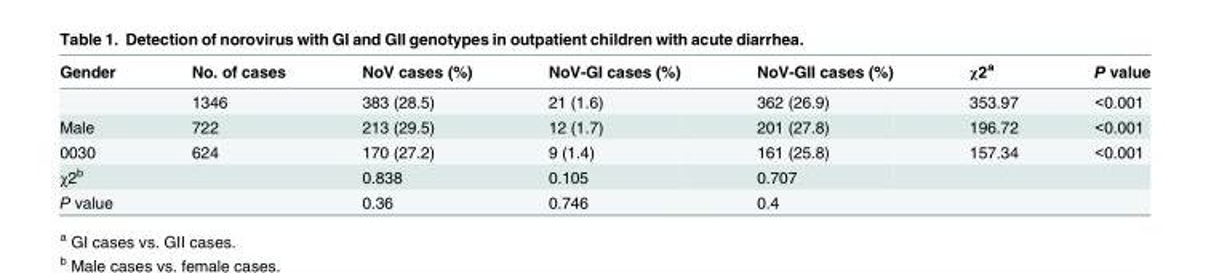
<table><thead><tr><td>Gender</td><td>No. of cases</td><td>NoV cases (%)</td><td>NoV-GI cases (%)</td><td>NoV-GII cases (%)</td><td>χ2<sup>a</sup></td><td>P value</td></tr></thead><tbody><tr><td></td><td>1346</td><td>383 (28.5)</td><td>21 (1.6)</td><td>362 (26.9)</td><td>353.97</td><td>&lt;0.001</td></tr><tr><td>Male</td><td>722</td><td>213 (29.5)</td><td>12 (1.7)</td><td>201 (27.8)</td><td>196.72</td><td>&lt;0.001</td></tr><tr><td>0030</td><td>624</td><td>170 (27.2)</td><td>9 (1.4)</td><td>161 (25.8)</td><td>157.34</td><td>&lt;0.001</td></tr><tr><td>χ2<sup>b</sup></td><td></td><td>0.838</td><td>0.105</td><td>0.707</td><td></td><td></td></tr><tr><td>P value</td><td></td><td>0.36</td><td>0.746</td><td>0.4</td><td></td><td></td></tr></tbody></table>